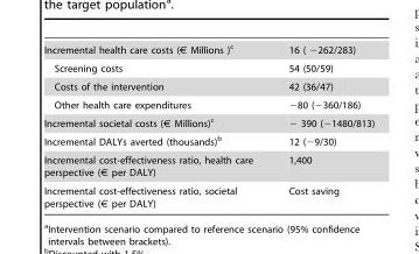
<table><tbody><tr><td>Incremental health care costs (€ Millions )<sup>c</sup></td><td>16 ( −262/283)</td></tr><tr><td>Screening costs</td><td>54 (50/59)</td></tr><tr><td>Costs of the intervention</td><td>42 (36/47)</td></tr><tr><td>Other health care expenditures</td><td>−80 (−360/186)</td></tr><tr><td>Incremental societal costs (€ Millions)<sup>c</sup></td><td>− 390 (−1480/813)</td></tr><tr><td>Incremental DALYs averted (thousands)<sup>b</sup></td><td>12 (−9/30)</td></tr><tr><td>Incremental cost-effectiveness ratio, health care perspective (€ per DALY)</td><td>1,400</td></tr><tr><td>Incremental cost-effectiveness ratio, societal perspective (€ per DALY)</td><td>Cost saving</td></tr></tbody></table>